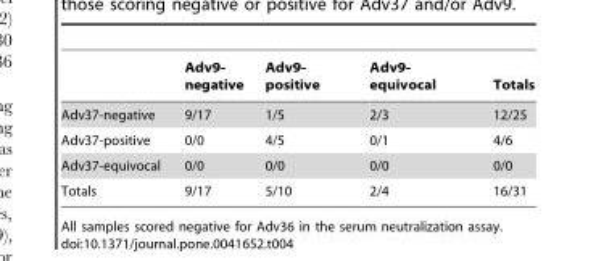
<table><thead><tr><td></td><td>Adv9- negative</td><td>Adv9- positive</td><td>Adv9- equivocal</td><td>Totals</td></tr></thead><tbody><tr><td>Adv37-negative</td><td>9/17</td><td>1/5</td><td>2/3</td><td>12/25</td></tr><tr><td>Adv37-positive</td><td>0/0</td><td>4/5</td><td>0/1</td><td>4/6</td></tr><tr><td>Adv37-equivocal</td><td>0/0</td><td>0/0</td><td>0/0</td><td>0/0</td></tr><tr><td>Totals</td><td>9/17</td><td>5/10</td><td>2/4</td><td>16/31</td></tr></tbody></table>